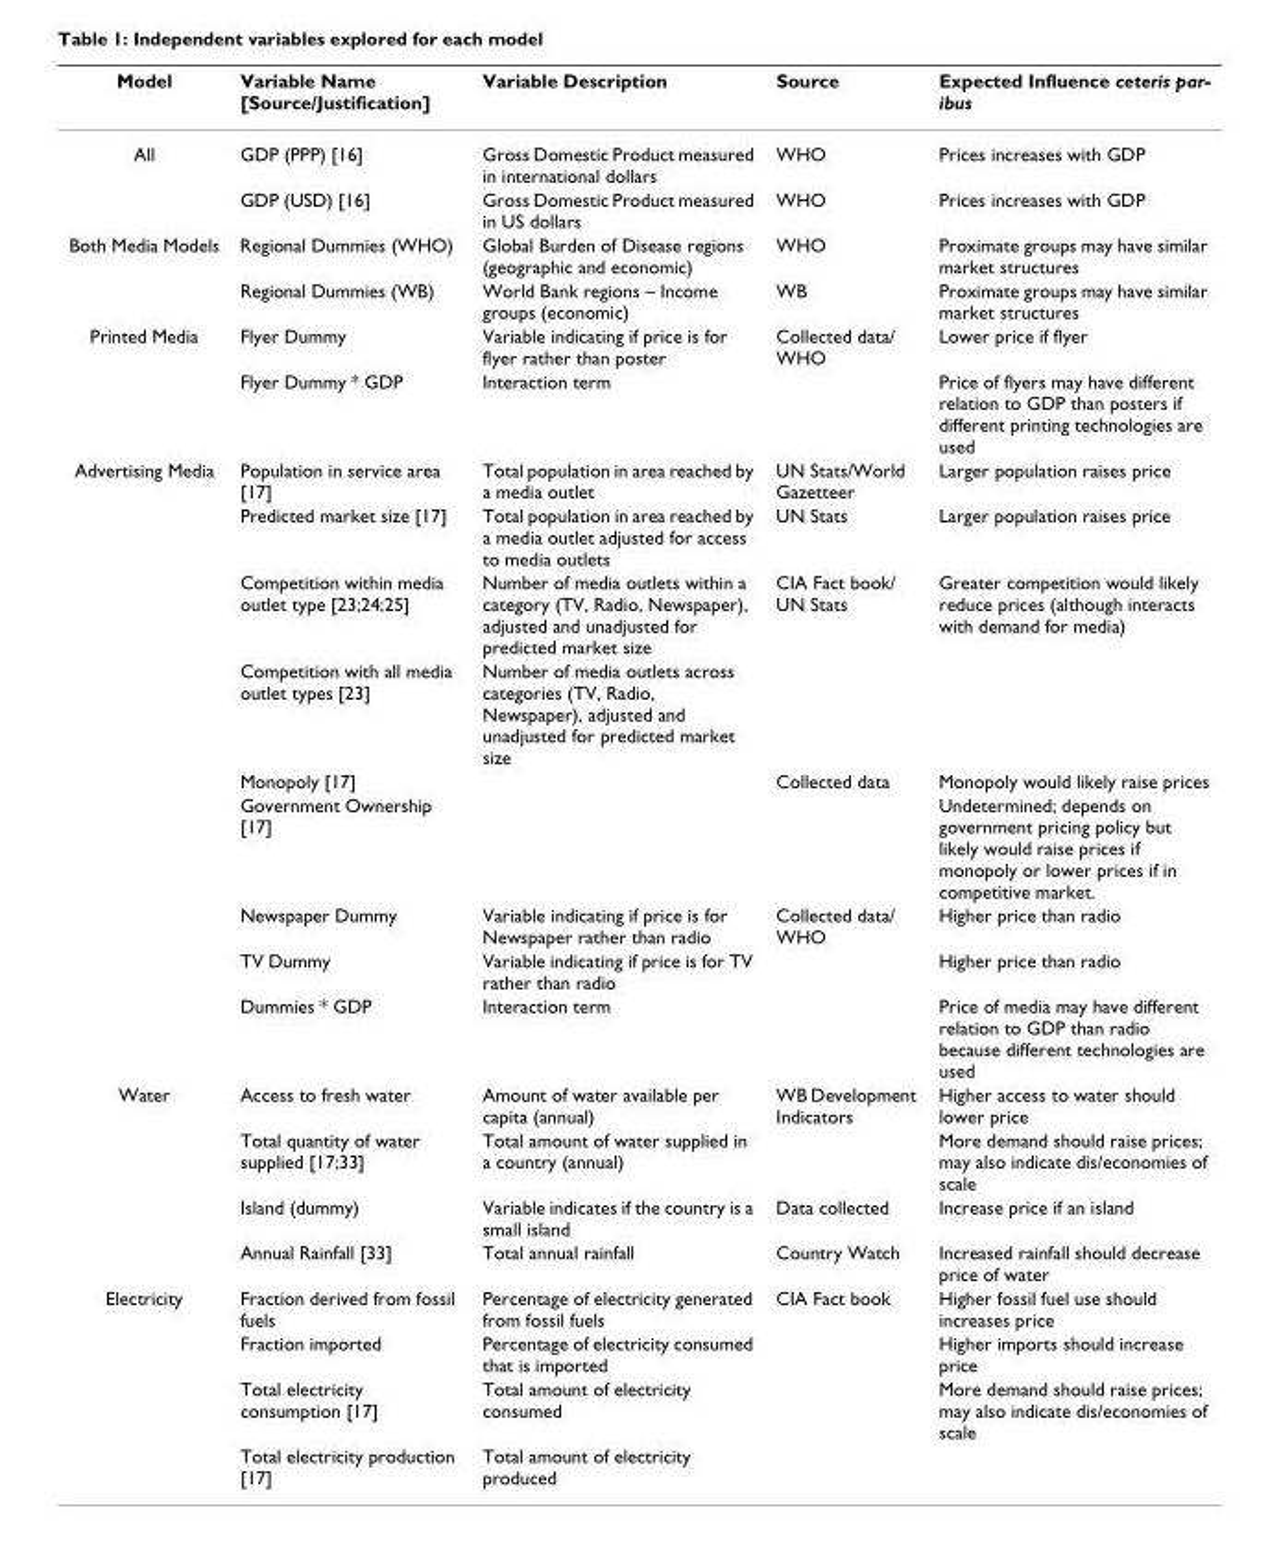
<table><thead><tr><td>Model</td><td>Variable Name [Source/Justification]</td><td>Variable Description</td><td>Source</td><td>Expected Influence ceteris par- ibus</td></tr></thead><tbody><tr><td rowspan="2">All</td><td>GDP (PPP) [16]</td><td>Gross Domestic Product measured in international dollars</td><td>WHO</td><td>Prices increases with GDP</td></tr><tr><td>GDP (USD) [16]</td><td>Gross Domestic Product measured in US dollars</td><td>WHO</td><td>Prices increases with GDP</td></tr><tr><td rowspan="2">Both Media Models</td><td>Regional Dummies (WHO)</td><td>Global Burden of Disease regions (geographic and economic)</td><td>WHO</td><td>Proximate groups may have similar market structures</td></tr><tr><td>Regional Dummies (WB)</td><td>World Bank regions – Income groups (economic)</td><td>WB</td><td>Proximate groups may have similar market structures</td></tr><tr><td rowspan="2">Printed Media</td><td>Flyer Dummy</td><td>Variable indicating if price is for flyer rather than poster</td><td>Collected data/ WHO</td><td>Lower price if flyer</td></tr><tr><td>Flyer Dummy * GDP</td><td>Interaction term</td><td></td><td>Price of flyers may have different relation to GDP than posters if different printing technologies are used</td></tr><tr><td rowspan="9">Advertising Media</td><td>Population in service area [17]</td><td>Total population in area reached by a media outlet</td><td>UN Stats/World Gazetteer</td><td>Larger population raises price</td></tr><tr><td>Predicted market size [17]</td><td>Total population in area reached by a media outlet adjusted for access to media outlets</td><td>UN Stats</td><td>Larger population raises price</td></tr><tr><td>Competition within media outlet type [23;24;25]</td><td>Number of media outlets within a category (TV, Radio, Newspaper), adjusted and unadjusted for predicted market size</td><td>CIA Fact book/ UN Stats</td><td>Greater competition would likely reduce prices (although interacts with demand for media)</td></tr><tr><td>Competition with all media outlet types [23]</td><td>Number of media outlets across categories (TV, Radio, Newspaper), adjusted and unadjusted for predicted market size</td><td></td><td></td></tr><tr><td>Monopoly [17]</td><td></td><td>Collected data</td><td>Monopoly would likely raise prices</td></tr><tr><td>Government Ownership [17]</td><td></td><td></td><td>Undetermined; depends on government pricing policy but likely would raise prices if monopoly or lower prices if in competitive market.</td></tr><tr><td>Newspaper Dummy</td><td>Variable indicating if price is for Newspaper rather than radio</td><td>Collected data/ WHO</td><td>Higher price than radio</td></tr><tr><td>TV Dummy</td><td>Variable indicating if price is for TV rather than radio</td><td></td><td>Higher price than radio</td></tr><tr><td>Dummies * GDP</td><td>Interaction term</td><td></td><td>Price of media may have different relation to GDP than radio because different technologies are used</td></tr><tr><td rowspan="4">Water</td><td>Access to fresh water</td><td>Amount of water available per capita (annual)</td><td>WB Development Indicators</td><td>Higher access to water should lower price</td></tr><tr><td>Total quantity of water supplied [17;33]</td><td>Total amount of water supplied in a country (annual)</td><td></td><td>More demand should raise prices; may also indicate dis/economies of scale</td></tr><tr><td>Island (dummy)</td><td>Variable indicates if the country is a small island</td><td>Data collected</td><td>Increase price if an island</td></tr><tr><td>Annual Rainfall [33]</td><td>Total annual rainfall</td><td>Country Watch</td><td>Increased rainfall should decrease price of water</td></tr><tr><td rowspan="4">Electricity</td><td>Fraction derived from fossil fuels</td><td>Percentage of electricity generated from fossil fuels</td><td>CIA Fact book</td><td>Higher fossil fuel use should increases price</td></tr><tr><td>Fraction imported</td><td>Percentage of electricity consumed that is imported</td><td></td><td>Higher imports should increase price</td></tr><tr><td>Total electricity consumption [17]</td><td>Total amount of electricity consumed</td><td></td><td>More demand should raise prices; may also indicate dis/economies of scale</td></tr><tr><td>Total electricity production [17]</td><td>Total amount of electricity produced</td><td></td><td></td></tr></tbody></table>